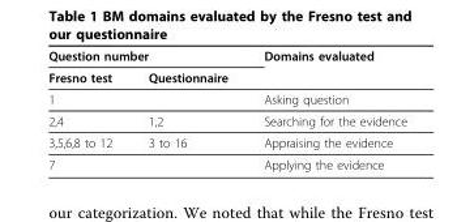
<table><thead><tr><td colspan="2">Question number</td><td rowspan="2">Domains evaluated</td></tr><tr><td>Fresno test</td><td>Questionnaire</td></tr></thead><tbody><tr><td>1</td><td></td><td>Asking question</td></tr><tr><td>2,4</td><td>1,2</td><td>Searching for the evidence</td></tr><tr><td>3,5,6,8 to 12</td><td>3 to 16</td><td>Appraising the evidence</td></tr><tr><td>7</td><td></td><td>Applying the evidence</td></tr></tbody></table>